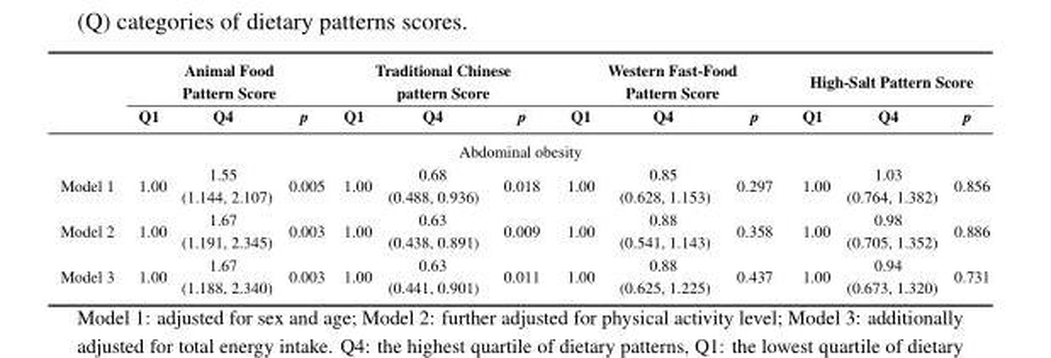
<table><thead><tr><td rowspan="2"></td><td colspan="3">Animal Food Pattern Score</td><td colspan="3">Traditional Chinese pattern Score</td><td colspan="3">Western Fast-Food Pattern Score</td><td colspan="3">High-Salt Pattern Score</td></tr><tr><td>Q1</td><td>Q4</td><td>p</td><td>Q1</td><td>Q4</td><td>p</td><td>Q1</td><td>Q4</td><td>p</td><td>Q1</td><td>Q4</td><td>p</td></tr></thead><tbody><tr><td colspan="13">Abdominal obesity</td></tr><tr><td>Model 1</td><td>1.00</td><td>1.55 (1.144, 2.107)</td><td>0.005</td><td>1.00</td><td>0.68 (0.488, 0.936)</td><td>0.018</td><td>1.00</td><td>0.85 (0.628, 1.153)</td><td>0.297</td><td>1.00</td><td>1.03 (0.764, 1.382)</td><td>0.856</td></tr><tr><td>Model 2</td><td>1.00</td><td>1.67 (1.191, 2.345)</td><td>0.003</td><td>1.00</td><td>0.63 (0.438, 0.891)</td><td>0.009</td><td>1.00</td><td>0.88 (0.541, 1.143)</td><td>0.358</td><td>1.00</td><td>0.98 (0.705, 1.352)</td><td>0.886</td></tr><tr><td>Model 3</td><td>1.00</td><td>1.67 (1.188, 2.340)</td><td>0.003</td><td>1.00</td><td>0.63 (0.441, 0.901)</td><td>0.011</td><td>1.00</td><td>0.88 (0.625, 1.225)</td><td>0.437</td><td>1.00</td><td>0.94 (0.673, 1.320)</td><td>0.731</td></tr></tbody></table>